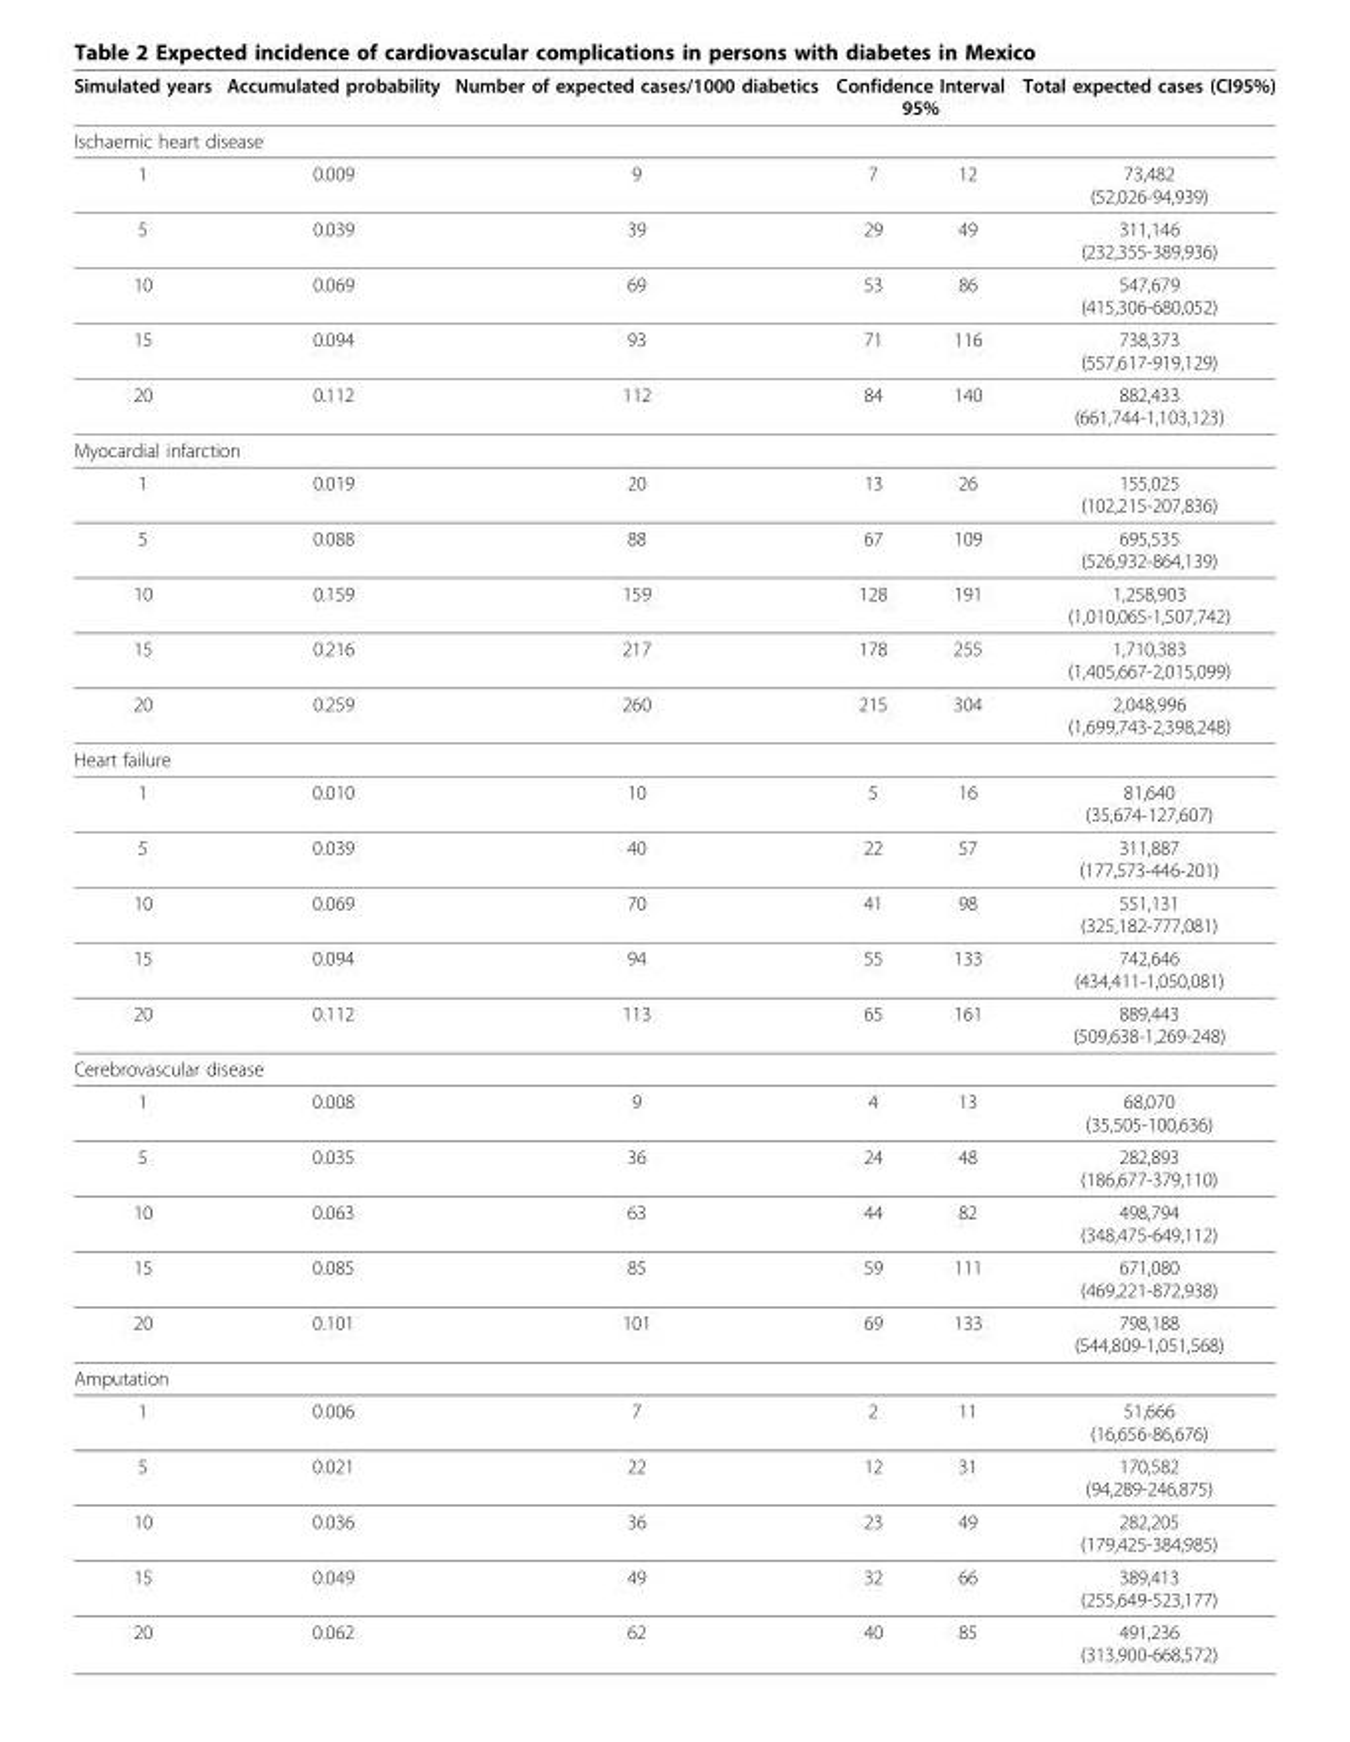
<table><thead><tr><td>Simulated years</td><td>Accumulated probability</td><td>Number of expected cases/1000 diabetics</td><td colspan="2">Confidence Interval 95%</td><td>Total expected cases (CI95%)</td></tr><tr><td colspan="6">Ischaemic heart disease</td></tr><tr><td>1</td><td>0.009</td><td>9</td><td>7</td><td>12</td><td>73,482 (52,026-94,939)</td></tr></thead><tbody><tr><td>5</td><td>0.039</td><td>39</td><td>29</td><td>49</td><td>311,146 (232,355-389,936)</td></tr><tr><td>10</td><td>0.069</td><td>69</td><td>53</td><td>86</td><td>547,679 (415,306-680,052)</td></tr><tr><td>15</td><td>0.094</td><td>93</td><td>71</td><td>116</td><td>738,373 (557,617-919,129)</td></tr><tr><td>20</td><td>0.112</td><td>112</td><td>84</td><td>140</td><td>882,433 (661,744-1,103,123)</td></tr><tr><td colspan="6">Myocardial infarction</td></tr><tr><td>1</td><td>0.019</td><td>20</td><td>13</td><td>26</td><td>155,025 (102,215-207,836)</td></tr><tr><td>5</td><td>0.088</td><td>88</td><td>67</td><td>109</td><td>695,535 (526,932-864,139)</td></tr><tr><td>10</td><td>0.159</td><td>159</td><td>128</td><td>191</td><td>1,258,903 (1,010,065-1,507,742)</td></tr><tr><td>15</td><td>0.216</td><td>217</td><td>178</td><td>255</td><td>1,710,383 (1,405,667-2,015,099)</td></tr><tr><td>20</td><td>0.259</td><td>260</td><td>215</td><td>304</td><td>2,048,996 (1,699,743-2,398,248)</td></tr><tr><td colspan="6">Heart failure</td></tr><tr><td>1</td><td>0.010</td><td>10</td><td>5</td><td>16</td><td>81,640 (35,674-127,607)</td></tr><tr><td>5</td><td>0.039</td><td>40</td><td>22</td><td>57</td><td>311,887 (177,573-446-201)</td></tr><tr><td>10</td><td>0.069</td><td>70</td><td>41</td><td>98</td><td>551,131 (325,182-777,081)</td></tr><tr><td>15</td><td>0.094</td><td>94</td><td>55</td><td>133</td><td>742,646 (434,411-1,050,081)</td></tr><tr><td>20</td><td>0.112</td><td>113</td><td>65</td><td>161</td><td>889,443 (509,638-1,269-248)</td></tr><tr><td colspan="6">Cerebrovascular disease</td></tr><tr><td>1</td><td>0.008</td><td>9</td><td>4</td><td>13</td><td>68,070 (35,505-100,636)</td></tr><tr><td>5</td><td>0.035</td><td>36</td><td>24</td><td>48</td><td>282,893 (186,677-379,110)</td></tr><tr><td>10</td><td>0.063</td><td>63</td><td>44</td><td>82</td><td>498,794 (348,475-649,112)</td></tr><tr><td>15</td><td>0.085</td><td>85</td><td>59</td><td>111</td><td>671,080 (469,221-872,938)</td></tr><tr><td>20</td><td>0.101</td><td>101</td><td>69</td><td>133</td><td>798,188 (544,809-1,051,568)</td></tr><tr><td colspan="6">Amputation</td></tr><tr><td>1</td><td>0.006</td><td>7</td><td>2</td><td>11</td><td>51,666 (16,656-86,676)</td></tr><tr><td>5</td><td>0.021</td><td>22</td><td>12</td><td>31</td><td>170,582 (94,289-246,875)</td></tr><tr><td>10</td><td>0.036</td><td>36</td><td>23</td><td>49</td><td>282,205 (179,425-384,985)</td></tr><tr><td>15</td><td>0.049</td><td>49</td><td>32</td><td>66</td><td>389,413 (255,649-523,177)</td></tr><tr><td>20</td><td>0.062</td><td>62</td><td>40</td><td>85</td><td>491,236 (313,900-668,572)</td></tr></tbody></table>